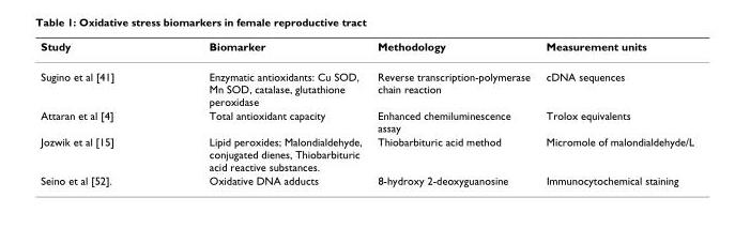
<table><thead><tr><td>Study</td><td>Biomarker</td><td>Methodology</td><td>Measurement units</td></tr></thead><tbody><tr><td>Sugino et al [41]</td><td>Enzymatic antioxidants: Cu SOD, Mn SOD, catalase, glutathione peroxidase</td><td>Reverse transcription-polymerase chain reaction</td><td>cDNA sequences</td></tr><tr><td>Attaran et al [4]</td><td>Total antioxidant capacity</td><td>Enhanced chemiluminescence assay</td><td>Trolox equivalents</td></tr><tr><td>Jozwik et al [15]</td><td>Lipid peroxides; Malondialdehyde, conjugated dienes, Thiobarbituric acid reactive substances.</td><td>Thiobarbituric acid method</td><td>Micromole of malondialdehyde/L</td></tr><tr><td>Seino et al [52].</td><td>Oxidative DNA adducts</td><td>8-hydroxy 2-deoxyguanosine</td><td>Immunocytochemical staining</td></tr></tbody></table>